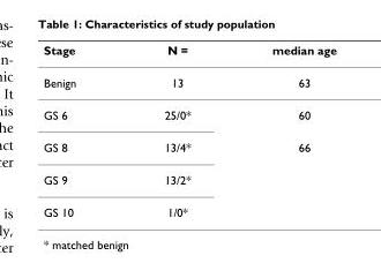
<table><thead><tr><td>Stage</td><td>N =</td><td>median age</td></tr></thead><tbody><tr><td>Benign</td><td>13</td><td>63</td></tr><tr><td>GS 6</td><td>25/0*</td><td>60</td></tr><tr><td>GS 8</td><td>13/4*</td><td>66</td></tr><tr><td>GS 9</td><td>13/2*</td><td></td></tr><tr><td>GS 10</td><td>1/0*</td><td></td></tr></tbody></table>